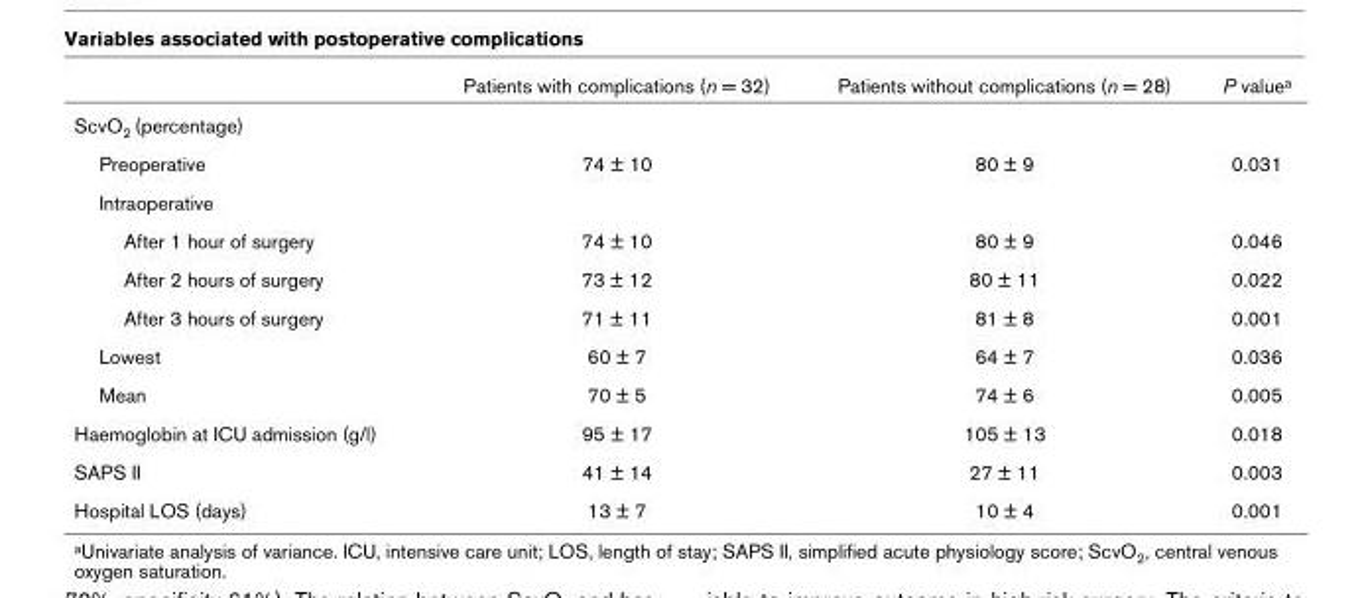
<table><thead><tr><td></td><td>Patients with complications (n = 32)</td><td>Patients without complications (n = 28)</td><td>P valuea</td></tr></thead><tbody><tr><td colspan="4">ScvO2 (percentage)</td></tr><tr><td>Preoperative</td><td>74 ± 10</td><td>80 ± 9</td><td>0.031</td></tr><tr><td colspan="4">Intraoperative</td></tr><tr><td>After 1 hour of surgery</td><td>74 ± 10</td><td>80 ± 9</td><td>0.046</td></tr><tr><td>After 2 hours of surgery</td><td>73 ± 12</td><td>80 ± 11</td><td>0.022</td></tr><tr><td>After 3 hours of surgery</td><td>71 ± 11</td><td>81 ± 8</td><td>0.001</td></tr><tr><td>Lowest</td><td>60 ± 7</td><td>64 ± 7</td><td>0.036</td></tr><tr><td>Mean</td><td>70 ± 5</td><td>74 ± 6</td><td>0.005</td></tr><tr><td>Haemoglobin at ICU admission (g/l)</td><td>95 ± 17</td><td>105 ± 13</td><td>0.018</td></tr><tr><td>SAPS II</td><td>41 ± 14</td><td>27 ± 11</td><td>0.003</td></tr><tr><td>Hospital LOS (days)</td><td>13 ± 7</td><td>10 ± 4</td><td>0.001</td></tr></tbody></table>